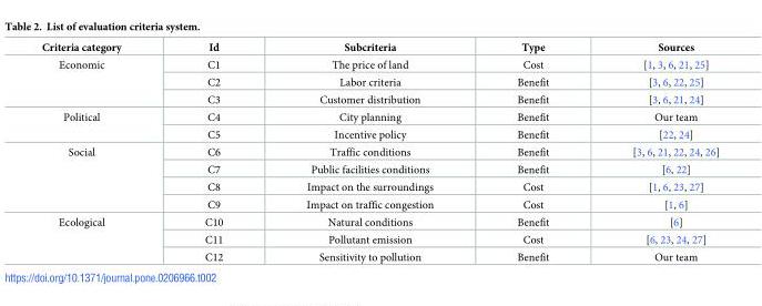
<table><thead><tr><td>Criteria category</td><td>Id</td><td>Subcriteria</td><td>Type</td><td>Sources</td></tr></thead><tbody><tr><td rowspan="3">Economic</td><td>C1</td><td>The price of land</td><td>Cost</td><td>[1, 3, 6, 21, 25]</td></tr><tr><td>C2</td><td>Labor criteria</td><td>Benefit</td><td>[3, 6, 22, 25]</td></tr><tr><td>C3</td><td>Customer distribution</td><td>Benefit</td><td>[3, 6, 21, 24]</td></tr><tr><td rowspan="2">Political</td><td>C4</td><td>City planning</td><td>Benefit</td><td>Our team</td></tr><tr><td>C5</td><td>Incentive policy</td><td>Benefit</td><td>[22, 24]</td></tr><tr><td rowspan="4">Social</td><td>C6</td><td>Traffic conditions</td><td>Benefit</td><td>[3, 6, 21, 22, 24, 26]</td></tr><tr><td>C7</td><td>Public facilities conditions</td><td>Benefit</td><td>[6, 22]</td></tr><tr><td>C8</td><td>Impact on the surroundings</td><td>Cost</td><td>[1, 6, 23, 27]</td></tr><tr><td>C9</td><td>Impact on traffic congestion</td><td>Cost</td><td>[1, 6]</td></tr><tr><td rowspan="3">Ecological</td><td>C10</td><td>Natural conditions</td><td>Benefit</td><td>[6]</td></tr><tr><td>C11</td><td>Pollutant emission</td><td>Cost</td><td>[6, 23, 24, 27]</td></tr><tr><td>C12</td><td>Sensitivity to pollution</td><td>Benefit</td><td>Our team</td></tr></tbody></table>